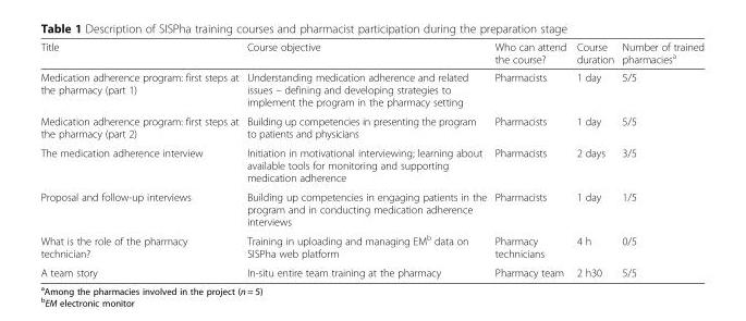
<table><thead><tr><td>Title</td><td>Course objective</td><td>Who can attend the course?</td><td>Course duration</td><td>Number of trained pharmacies<sup>a</sup></td></tr></thead><tbody><tr><td>Medication adherence program: first steps at the pharmacy (part 1)</td><td>Understanding medication adherence and related issues – defining and developing strategies to implement the program in the pharmacy setting</td><td>Pharmacists</td><td>1 day</td><td>5/5</td></tr><tr><td>Medication adherence program: first steps at the pharmacy (part 2)</td><td>Building up competencies in presenting the program to patients and physicians</td><td>Pharmacists</td><td>1 day</td><td>5/5</td></tr><tr><td>The medication adherence interview</td><td>Initiation in motivational interviewing; learning about available tools for monitoring and supporting medication adherence</td><td>Pharmacists</td><td>2 days</td><td>3/5</td></tr><tr><td>Proposal and follow-up interviews</td><td>Building up competencies in engaging patients in the program and in conducting medication adherence interviews</td><td>Pharmacists</td><td>1 day</td><td>1/5</td></tr><tr><td>What is the role of the pharmacy technician?</td><td>Training in uploading and managing EM<sup>b</sup> data on SISPha web platform</td><td>Pharmacy technicians</td><td>4 h</td><td>0/5</td></tr><tr><td>A team story</td><td>In-situ entire team training at the pharmacy</td><td>Pharmacy team</td><td>2 h30</td><td>5/5</td></tr></tbody></table>